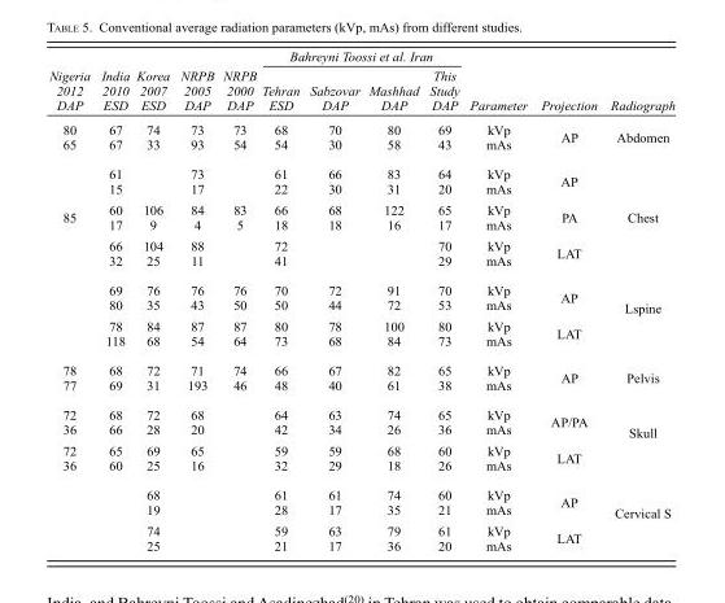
<table><thead><tr><td rowspan="2">Nigeria 2012 DAP</td><td rowspan="2">India 2010 ESD</td><td rowspan="2">Korea 2007 ESD</td><td rowspan="2">NRPB 2005 DAP</td><td rowspan="2">NRPB 2000 DAP</td><td colspan="4">Bahreyni Toossi et al. Iran</td><td rowspan="2">Parameter</td><td rowspan="2">Projection</td><td rowspan="2">Radiograph</td></tr><tr><td>Tehran ESD</td><td>Sabzovar DAP</td><td>Mashhad DAP</td><td>This Study DAP</td></tr></thead><tbody><tr><td>80</td><td>67</td><td>74</td><td>73</td><td>73</td><td>68</td><td>70</td><td>80</td><td>69</td><td>kVp</td><td rowspan="2">AP</td><td rowspan="2">Abdomen</td></tr><tr><td rowspan="3">65</td><td>67</td><td>33</td><td>93</td><td>54</td><td>54</td><td>30</td><td>58</td><td>43</td><td>mAs</td></tr><tr><td>61</td><td></td><td>73</td><td></td><td>61</td><td>66</td><td>83</td><td>64</td><td>kVp</td><td rowspan="2">AP</td><td rowspan="2"></td></tr><tr><td>15</td><td></td><td>17</td><td></td><td>22</td><td>30</td><td>31</td><td>20</td><td>mAs</td></tr><tr><td rowspan="8">85</td><td>60</td><td>106</td><td>84</td><td>83</td><td>66</td><td>68</td><td>122</td><td>65</td><td>kVp</td><td rowspan="2">PA</td><td rowspan="2">Chest</td></tr><tr><td>17</td><td>9</td><td>4</td><td>5</td><td>18</td><td>18</td><td>16</td><td>17</td><td>mAs</td></tr><tr><td>66</td><td>104</td><td>88</td><td></td><td>72</td><td></td><td></td><td>70</td><td>kVp</td><td rowspan="2">LAT</td><td rowspan="2"></td></tr><tr><td>32</td><td>25</td><td>11</td><td></td><td>41</td><td></td><td></td><td>29</td><td>mAs</td></tr><tr><td>69</td><td>76</td><td>76</td><td>76</td><td>70</td><td>72</td><td>91</td><td>70</td><td>kVp</td><td rowspan="2">AP</td><td rowspan="4">Lspine</td></tr><tr><td>80</td><td>35</td><td>43</td><td>50</td><td>50</td><td>44</td><td>72</td><td>53</td><td>mAs</td></tr><tr><td>78</td><td>84</td><td>87</td><td>87</td><td>80</td><td>78</td><td>100</td><td>80</td><td>kVp</td><td rowspan="2">LAT</td></tr><tr><td>118</td><td>68</td><td>54</td><td>64</td><td>73</td><td>68</td><td>84</td><td>73</td><td>mAs</td></tr><tr><td>78</td><td>68</td><td>72</td><td>71</td><td>74</td><td>66</td><td>67</td><td>82</td><td>65</td><td>kVp</td><td rowspan="2">AP</td><td rowspan="2">Pelvis</td></tr><tr><td>77</td><td>69</td><td>31</td><td>193</td><td>46</td><td>48</td><td>40</td><td>61</td><td>38</td><td>mAs</td></tr><tr><td>72</td><td>68</td><td>72</td><td>68</td><td></td><td>64</td><td>63</td><td>74</td><td>65</td><td>kVp</td><td rowspan="2">AP/PA</td><td rowspan="4">Skull</td></tr><tr><td>36</td><td>66</td><td>28</td><td>20</td><td></td><td>42</td><td>34</td><td>26</td><td>36</td><td>mAs</td></tr><tr><td>72</td><td>65</td><td>69</td><td>65</td><td></td><td>59</td><td>59</td><td>68</td><td>60</td><td>kVp</td><td rowspan="2">LAT</td></tr><tr><td rowspan="5">36</td><td>60</td><td>25</td><td>16</td><td></td><td>32</td><td>29</td><td>18</td><td>26</td><td>mAs</td></tr><tr><td></td><td>68</td><td></td><td></td><td>61</td><td>61</td><td>74</td><td>60</td><td>kVp</td><td rowspan="2">AP</td><td rowspan="4">Cervical S</td></tr><tr><td></td><td>19</td><td></td><td></td><td>28</td><td>17</td><td>35</td><td>21</td><td>mAs</td></tr><tr><td></td><td>74</td><td></td><td></td><td>59</td><td>63</td><td>79</td><td>61</td><td>kVp</td><td rowspan="2">LAT</td></tr><tr><td></td><td>25</td><td></td><td></td><td>21</td><td>17</td><td>36</td><td>20</td><td>mAs</td></tr></tbody></table>